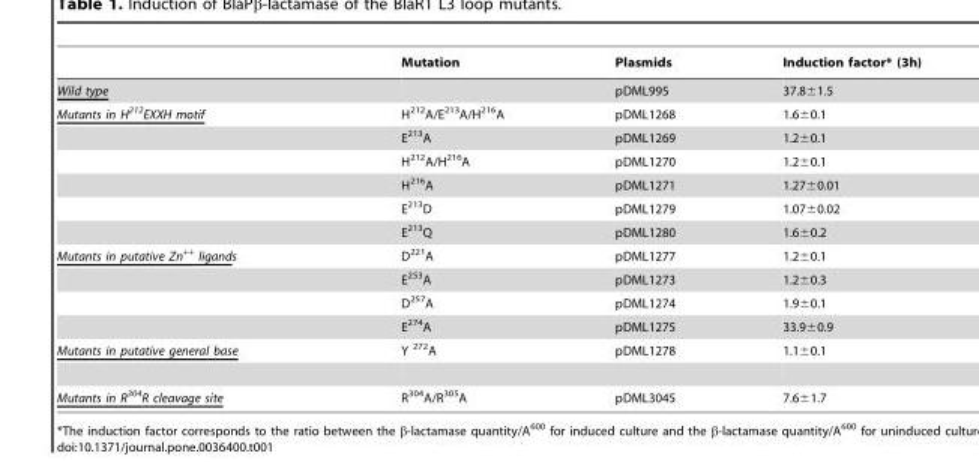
<table><thead><tr><td></td><td>Mutation</td><td>Plasmids</td><td>Induction factor* (3h)</td></tr></thead><tbody><tr><td>Wild type</td><td></td><td>pDML995</td><td>37.8±1.5</td></tr><tr><td rowspan="6">Mutants in H<sup>212</sup>EXXH motif</td><td>H<sup>212</sup>A/E<sup>213</sup>A/H<sup>216</sup>A</td><td>pDML1268</td><td>1.6±0.1</td></tr><tr><td>E<sup>213</sup>A</td><td>pDML1269</td><td>1.2±0.1</td></tr><tr><td>H<sup>212</sup>A/H<sup>216</sup>A</td><td>pDML1270</td><td>1.2±0.1</td></tr><tr><td>H<sup>216</sup>A</td><td>pDML1271</td><td>1.27±0.01</td></tr><tr><td>E<sup>213</sup>D</td><td>pDML1279</td><td>1.07±0.02</td></tr><tr><td>E<sup>213</sup>Q</td><td>pDML1280</td><td>1.6±0.2</td></tr><tr><td rowspan="4">Mutants in putative Zn<sup>++</sup> ligands</td><td>D<sup>221</sup>A</td><td>pDML1277</td><td>1.2±0.1</td></tr><tr><td>E<sup>253</sup>A</td><td>pDML1273</td><td>1.2±0.3</td></tr><tr><td>D<sup>257</sup>A</td><td>pDML1274</td><td>1.9±0.1</td></tr><tr><td>E<sup>274</sup>A</td><td>pDML1275</td><td>33.9±0.9</td></tr><tr><td>Mutants in putative general base</td><td>Y <sup>272</sup>A</td><td>pDML1278</td><td>1.1±0.1</td></tr><tr><td>Mutants in R<sup>304</sup>R cleavage site</td><td>R<sup>304</sup>A/R<sup>305</sup>A</td><td>pDML3045</td><td>7.6±1.7</td></tr></tbody></table>